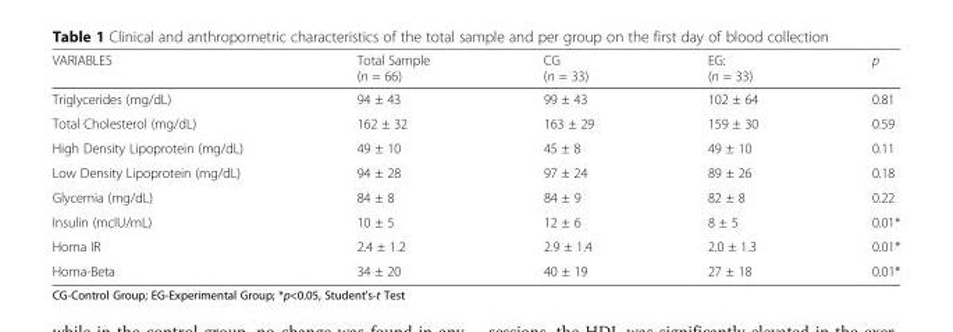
<table><thead><tr><td>VARIABLES</td><td>Total Sample (n = 66)</td><td>CG (n = 33)</td><td>EG: (n = 33)</td><td>p</td></tr></thead><tbody><tr><td>Triglycerides (mg/dL)</td><td>94 ± 43</td><td>99 ± 43</td><td>102 ± 64</td><td>0.81</td></tr><tr><td>Total Cholesterol (mg/dL)</td><td>162 ± 32</td><td>163 ± 29</td><td>159 ± 30</td><td>0.59</td></tr><tr><td>High Density Lipoprotein (mg/dL)</td><td>49 ± 10</td><td>45 ± 8</td><td>49 ± 10</td><td>0.11</td></tr><tr><td>Low Density Lipoprotein (mg/dL)</td><td>94 ± 28</td><td>97 ± 24</td><td>89 ± 26</td><td>0.18</td></tr><tr><td>Glycemia (mg/dL)</td><td>84 ± 8</td><td>84 ± 9</td><td>82 ± 8</td><td>0.22</td></tr><tr><td>Insulin (mcIU/mL)</td><td>10 ± 5</td><td>12 ± 6</td><td>8 ± 5</td><td>0.01*</td></tr><tr><td>Homa IR</td><td>2.4 ± 1.2</td><td>2.9 ± 1.4</td><td>2.0 ± 1.3</td><td>0.01*</td></tr><tr><td>Homa-Beta</td><td>34 ± 20</td><td>40 ± 19</td><td>27 ± 18</td><td>0.01*</td></tr></tbody></table>